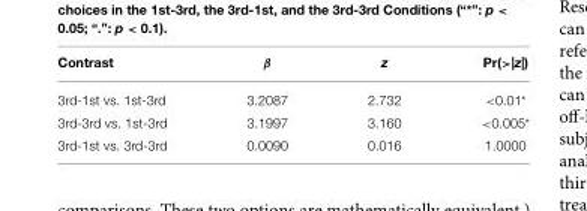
<table><thead><tr><td>Contrast</td><td>β</td><td>z</td><td>Pr(&gt;|z|)</td></tr></thead><tbody><tr><td>3rd-1st vs. 1st-3rd</td><td>3.2087</td><td>2.732</td><td>&lt;0.01*</td></tr><tr><td>3rd-3rd vs. 1st-3rd</td><td>3.1997</td><td>3.160</td><td>&lt;0.005*</td></tr><tr><td>3rd-1st vs. 3rd-3rd</td><td>0.0090</td><td>0.016</td><td>1.0000</td></tr></tbody></table>